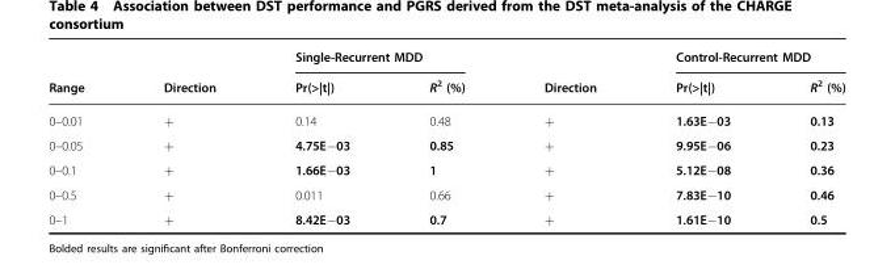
<table><thead><tr><td rowspan="2">Range</td><td rowspan="2">Direction</td><td colspan="2">Single-Recurrent MDD</td><td rowspan="2">Direction</td><td colspan="2">Control-Recurrent MDD</td></tr><tr><td>Pr(&gt;|t|)</td><td>R<sup>2</sup> (%)</td><td>Pr(&gt;|t|)</td><td>R<sup>2</sup> (%)</td></tr></thead><tbody><tr><td>0–0.01</td><td>+</td><td>0.14</td><td>0.48</td><td>+</td><td>1.63E−03</td><td>0.13</td></tr><tr><td>0–0.05</td><td>+</td><td>4.75E−03</td><td>0.85</td><td>+</td><td>9.95E−06</td><td>0.23</td></tr><tr><td>0–0.1</td><td>+</td><td>1.66E−03</td><td>1</td><td>+</td><td>5.12E−08</td><td>0.36</td></tr><tr><td>0–0.5</td><td>+</td><td>0.011</td><td>0.66</td><td>+</td><td>7.83E−10</td><td>0.46</td></tr><tr><td>0–1</td><td>+</td><td>8.42E−03</td><td>0.7</td><td>+</td><td>1.61E−10</td><td>0.5</td></tr></tbody></table>